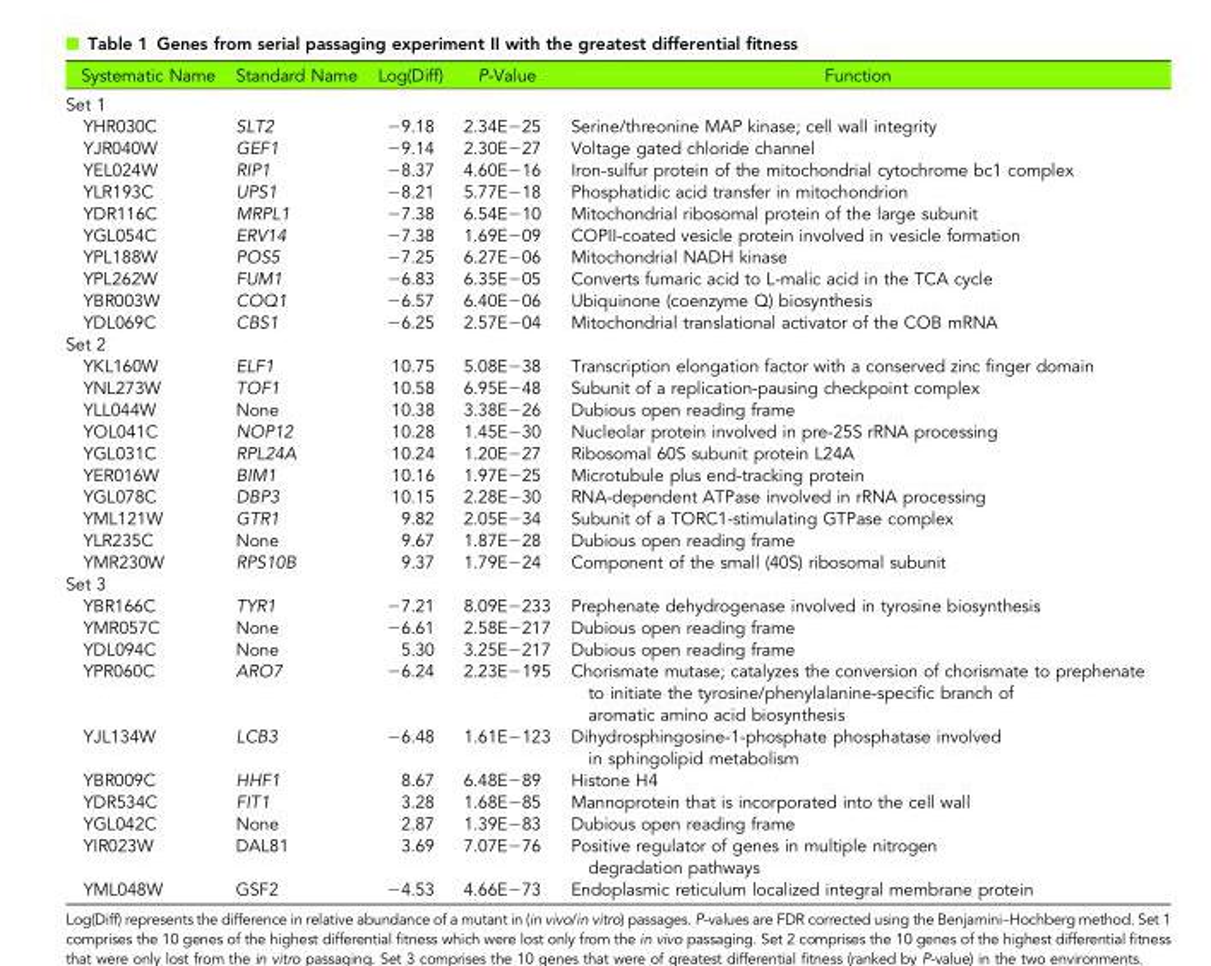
<table><thead><tr><td>Systematic Name</td><td>Standard Name</td><td>Log(Diff)</td><td>P-Value</td><td>Function</td></tr></thead><tbody><tr><td colspan="5">Set 1</td></tr><tr><td>YHR030C</td><td>SLT2</td><td>−9.18</td><td>2.34E−25</td><td>Serine/threonine MAP kinase; cell wall integrity</td></tr><tr><td>YJR040W</td><td>GEF1</td><td>−9.14</td><td>2.30E−27</td><td>Voltage gated chloride channel</td></tr><tr><td>YEL024W</td><td>RIP1</td><td>−8.37</td><td>4.60E−16</td><td>Iron-sulfur protein of the mitochondrial cytochrome bc1 complex</td></tr><tr><td>YLR193C</td><td>UPS1</td><td>−8.21</td><td>5.77E−18</td><td>Phosphatidic acid transfer in mitochondrion</td></tr><tr><td>YDR116C</td><td>MRPL1</td><td>−7.38</td><td>6.54E−10</td><td>Mitochondrial ribosomal protein of the large subunit</td></tr><tr><td>YGL054C</td><td>ERV14</td><td>−7.38</td><td>1.69E−09</td><td>COPII-coated vesicle protein involved in vesicle formation</td></tr><tr><td>YPL188W</td><td>POS5</td><td>−7.25</td><td>6.27E−06</td><td>Mitochondrial NADH kinase</td></tr><tr><td>YPL262W</td><td>FUM1</td><td>−6.83</td><td>6.35E−05</td><td>Converts fumaric acid to L-malic acid in the TCA cycle</td></tr><tr><td>YBR003W</td><td>COQ1</td><td>−6.57</td><td>6.40E−06</td><td>Ubiquinone (coenzyme Q) biosynthesis</td></tr><tr><td>YDL069C</td><td>CBS1</td><td>−6.25</td><td>2.57E−04</td><td>Mitochondrial translational activator of the COB mRNA</td></tr><tr><td colspan="5">Set 2</td></tr><tr><td>YKL160W</td><td>ELF1</td><td>10.75</td><td>5.08E−38</td><td>Transcription elongation factor with a conserved zinc finger domain</td></tr><tr><td>YNL273W</td><td>TOF1</td><td>10.58</td><td>6.95E−48</td><td>Subunit of a replication-pausing checkpoint complex</td></tr><tr><td>YLL044W</td><td>None</td><td>10.38</td><td>3.38E−26</td><td>Dubious open reading frame</td></tr><tr><td>YOL041C</td><td>NOP12</td><td>10.28</td><td>1.45E−30</td><td>Nucleolar protein involved in pre-25S rRNA processing</td></tr><tr><td>YGL031C</td><td>RPL24A</td><td>10.24</td><td>1.20E−27</td><td>Ribosomal 60S subunit protein L24A</td></tr><tr><td>YER016W</td><td>BIM1</td><td>10.16</td><td>1.97E−25</td><td>Microtubule plus end-tracking protein</td></tr><tr><td>YGL078C</td><td>DBP3</td><td>10.15</td><td>2.28E−30</td><td>RNA-dependent ATPase involved in rRNA processing</td></tr><tr><td>YML121W</td><td>GTR1</td><td>9.82</td><td>2.05E−34</td><td>Subunit of a TORC1-stimulating GTPase complex</td></tr><tr><td>YLR235C</td><td>None</td><td>9.67</td><td>1.87E−28</td><td>Dubious open reading frame</td></tr><tr><td>YMR230W</td><td>RPS10B</td><td>9.37</td><td>1.79E−24</td><td>Component of the small (40S) ribosomal subunit</td></tr><tr><td colspan="5">Set 3</td></tr><tr><td>YBR166C</td><td>TYR1</td><td>−7.21</td><td>8.09E−233</td><td>Prephenate dehydrogenase involved in tyrosine biosynthesis</td></tr><tr><td>YMR057C</td><td>None</td><td>−6.61</td><td>2.58E−217</td><td>Dubious open reading frame</td></tr><tr><td>YDL094C</td><td>None</td><td>5.30</td><td>3.25E−217</td><td>Dubious open reading frame</td></tr><tr><td>YPR060C</td><td>ARO7</td><td>−6.24</td><td>2.23E−195</td><td>Chorismate mutase; catalyzes the conversion of chorismate to prephenate to initiate the tyrosine/phenylalanine-specific branch of aromatic amino acid biosynthesis</td></tr><tr><td>YJL134W</td><td>LCB3</td><td>−6.48</td><td>1.61E−123</td><td>Dihydrosphingosine-1-phosphate phosphatase involved in sphingolipid metabolism</td></tr><tr><td>YBR009C</td><td>HHF1</td><td>8.67</td><td>6.48E−89</td><td>Histone H4</td></tr><tr><td>YDR534C</td><td>FIT1</td><td>3.28</td><td>1.68E−85</td><td>Mannoprotein that is incorporated into the cell wall</td></tr><tr><td>YGL042C</td><td>None</td><td>2.87</td><td>1.39E−83</td><td>Dubious open reading frame</td></tr><tr><td>YIR023W</td><td>DAL81</td><td>3.69</td><td>7.07E−76</td><td>Positive regulator of genes in multiple nitrogen degradation pathways</td></tr><tr><td>YML048W</td><td>GSF2</td><td>−4.53</td><td>4.66E−73</td><td>Endoplasmic reticulum localized integral membrane protein</td></tr></tbody></table>